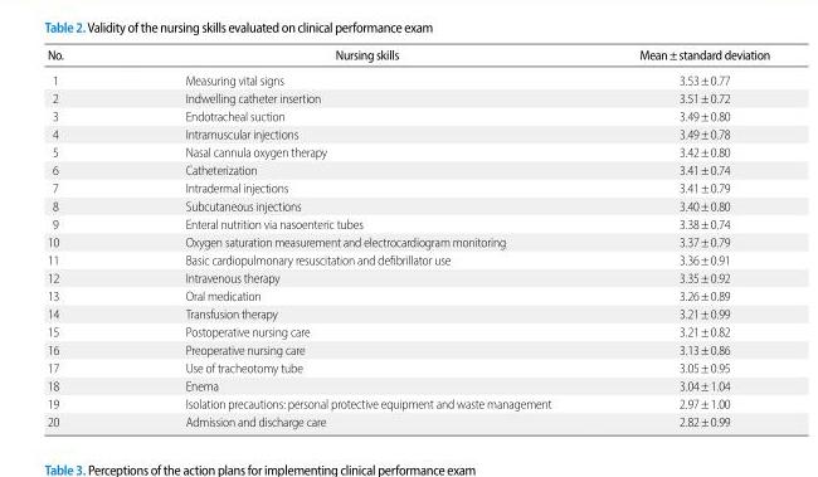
<table><thead><tr><td>No.</td><td>Nursing skills</td><td>Mean±standard deviation</td></tr></thead><tbody><tr><td>1</td><td>Measuring vital signs</td><td>3.53±0.77</td></tr><tr><td>2</td><td>Indwelling catheter insertion</td><td>3.51±0.72</td></tr><tr><td>3</td><td>Endotracheal suction</td><td>3.49±0.80</td></tr><tr><td>4</td><td>Intramuscular injections</td><td>3.49±0.78</td></tr><tr><td>5</td><td>Nasal cannula oxygen therapy</td><td>3.42±0.80</td></tr><tr><td>6</td><td>Catheterization</td><td>3.41±0.74</td></tr><tr><td>7</td><td>Intradermal injections</td><td>3.41±0.79</td></tr><tr><td>8</td><td>Subcutaneous injections</td><td>3.40±0.80</td></tr><tr><td>9</td><td>Enteral nutrition via nasoenteric tubes</td><td>3.38±0.74</td></tr><tr><td>10</td><td>Oxygen saturation measurement and electrocardiogram monitoring</td><td>3.37±0.79</td></tr><tr><td>11</td><td>Basic cardiopulmonary resuscitation and defibrillator use</td><td>3.36±0.91</td></tr><tr><td>12</td><td>Intravenous therapy</td><td>3.35±0.92</td></tr><tr><td>13</td><td>Oral medication</td><td>3.26±0.89</td></tr><tr><td>14</td><td>Transfusion therapy</td><td>3.21±0.99</td></tr><tr><td>15</td><td>Postoperative nursing care</td><td>3.21±0.82</td></tr><tr><td>16</td><td>Preoperative nursing care</td><td>3.13±0.86</td></tr><tr><td>17</td><td>Use of tracheotomy tube</td><td>3.05±0.95</td></tr><tr><td>18</td><td>Enema</td><td>3.04±1.04</td></tr><tr><td>19</td><td>Isolation precautions: personal protective equipment and waste management</td><td>2.97±1.00</td></tr><tr><td>20</td><td>Admission and discharge care</td><td>2.82±0.99</td></tr></tbody></table>